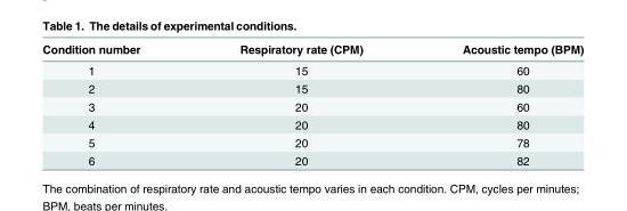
<table><thead><tr><td>Condition number</td><td>Respiratory rate (CPM)</td><td>Acoustic tempo (BPM)</td></tr></thead><tbody><tr><td>1</td><td>15</td><td>60</td></tr><tr><td>2</td><td>15</td><td>80</td></tr><tr><td>3</td><td>20</td><td>60</td></tr><tr><td>4</td><td>20</td><td>80</td></tr><tr><td>5</td><td>20</td><td>78</td></tr><tr><td>6</td><td>20</td><td>82</td></tr></tbody></table>